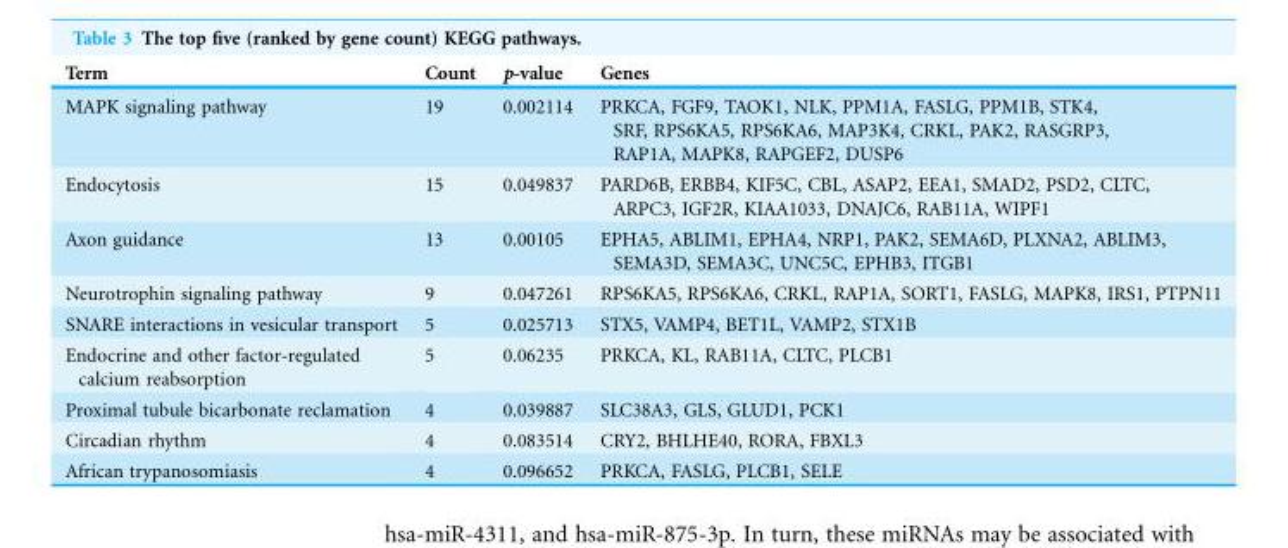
<table><thead><tr><td>Term</td><td>Count</td><td>p-value</td><td>Genes</td></tr></thead><tbody><tr><td>MAPK signaling pathway</td><td>19</td><td>0.002114</td><td>PRKCA, FGF9, TAOK1, NLK, PPM1A, FASLG, PPM1B, STK4, SRF, RPS6KA5, RPS6KA6, MAP3K4, CRKL, PAK2, RASGRP3, RAP1A, MAPK8, RAPGEF2, DUSP6</td></tr><tr><td>Endocytosis</td><td>15</td><td>0.049837</td><td>PARD6B, ERBB4, KIF5C, CBL, ASAP2, EEA1, SMAD2, PSD2, CLTC, ARPC3, IGF2R, KIAA1033, DNAJC6, RAB11A, WIPF1</td></tr><tr><td>Axon guidance</td><td>13</td><td>0.00105</td><td>EPHA5, ABLIM1, EPHA4, NRP1, PAK2, SEMA6D, PLXNA2, ABLIM3, SEMA3D, SEMA3C, UNC5C, EPHB3, ITGB1</td></tr><tr><td>Neurotrophin signaling pathway</td><td>9</td><td>0.047261</td><td>RPS6KA5, RPS6KA6, CRKL, RAP1A, SORT1, FASLG, MAPK8, IRS1, PTPN11</td></tr><tr><td>SNARE interactions in vesicular transport</td><td>5</td><td>0.025713</td><td>STX5, VAMP4, BET1L, VAMP2, STX1B</td></tr><tr><td>Endocrine and other factor-regulated calcium reabsorption</td><td>5</td><td>0.06235</td><td>PRKCA, KL, RAB11A, CLTC, PLCB1</td></tr><tr><td>Proximal tubule bicarbonate reclamation</td><td>4</td><td>0.039887</td><td>SLC38A3, GLS, GLUD1, PCK1</td></tr><tr><td>Circadian rhythm</td><td>4</td><td>0.083514</td><td>CRY2, BHLHE40, RORA, FBXL3</td></tr><tr><td>African trypanosomiasis</td><td>4</td><td>0.096652</td><td>PRKCA, FASLG, PLCB1, SELE</td></tr></tbody></table>